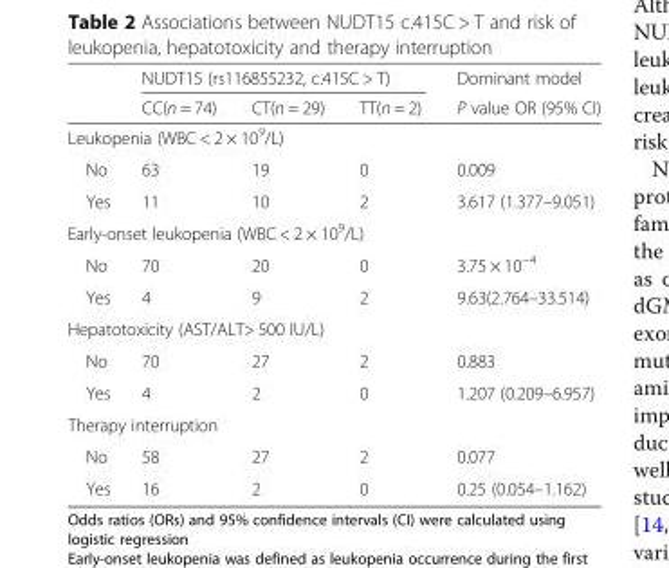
<table><thead><tr><td rowspan="2"></td><td colspan="3">NUDT15 (rs116855232, c.415C &gt; T)</td><td rowspan="2">Dominant model P value OR (95% CI)</td></tr><tr><td>CC(n = 74)</td><td>CT(n = 29)</td><td>TT(n = 2)</td></tr></thead><tbody><tr><td colspan="5">Leukopenia (WBC &lt; 2 × 10<sup>9</sup>/L)</td></tr><tr><td>No</td><td>63</td><td>19</td><td>0</td><td>0.009</td></tr><tr><td>Yes</td><td>11</td><td>10</td><td>2</td><td>3.617 (1.377–9.051)</td></tr><tr><td colspan="5">Early-onset leukopenia (WBC &lt; 2 × 10<sup>9</sup>/L)</td></tr><tr><td>No</td><td>70</td><td>20</td><td>0</td><td>3.75 × 10<sup>−4</sup></td></tr><tr><td>Yes</td><td>4</td><td>9</td><td>2</td><td>9.63(2.764–33.514)</td></tr><tr><td colspan="5">Hepatotoxicity (AST/ALT&gt; 500 IU/L)</td></tr><tr><td>No</td><td>70</td><td>27</td><td>2</td><td>0.883</td></tr><tr><td>Yes</td><td>4</td><td>2</td><td>0</td><td>1.207 (0.209–6.957)</td></tr><tr><td colspan="5">Therapy interruption</td></tr><tr><td>No</td><td>58</td><td>27</td><td>2</td><td>0.077</td></tr><tr><td>Yes</td><td>16</td><td>2</td><td>0</td><td>0.25 (0.054–1.162)</td></tr></tbody></table>